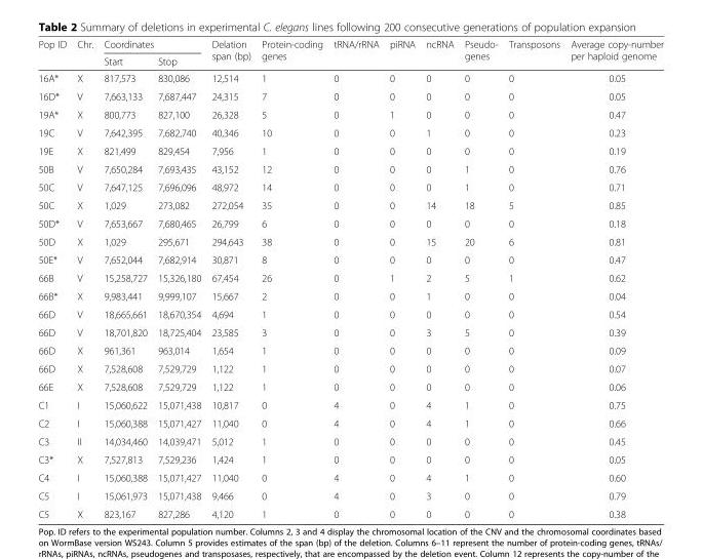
<table><thead><tr><td rowspan="2">Pop ID</td><td rowspan="2">Chr.</td><td colspan="2">Coordinates</td><td rowspan="2">Delation span (bp)</td><td rowspan="2">Protein-coding genes</td><td rowspan="2">tRNA/rRNA</td><td rowspan="2">piRNA</td><td rowspan="2">ncRNA</td><td rowspan="2">Pseudo- genes</td><td rowspan="2">Transposons</td><td rowspan="2">Average copy-number per haploid genome</td></tr><tr><td>Start</td><td>Stop</td></tr></thead><tbody><tr><td>16A*</td><td>X</td><td>817,573</td><td>830,086</td><td>12,514</td><td>1</td><td>0</td><td>0</td><td>0</td><td>0</td><td>0</td><td>0.05</td></tr><tr><td>16D*</td><td>V</td><td>7,663,133</td><td>7,687,447</td><td>24,315</td><td>7</td><td>0</td><td>0</td><td>0</td><td>0</td><td>0</td><td>0.05</td></tr><tr><td>19A*</td><td>X</td><td>800,773</td><td>827,100</td><td>26,328</td><td>5</td><td>0</td><td>1</td><td>0</td><td>0</td><td>0</td><td>0.47</td></tr><tr><td>19C</td><td>V</td><td>7,642,395</td><td>7,682,740</td><td>40,346</td><td>10</td><td>0</td><td>0</td><td>1</td><td>0</td><td>0</td><td>0.23</td></tr><tr><td>19E</td><td>X</td><td>821,499</td><td>829,454</td><td>7,956</td><td>1</td><td>0</td><td>0</td><td>0</td><td>0</td><td>0</td><td>0.19</td></tr><tr><td>50B</td><td>V</td><td>7,650,284</td><td>7,693,435</td><td>43,152</td><td>12</td><td>0</td><td>0</td><td>0</td><td>1</td><td>0</td><td>0.76</td></tr><tr><td>50C</td><td>V</td><td>7,647,125</td><td>7,696,096</td><td>48,972</td><td>14</td><td>0</td><td>0</td><td>0</td><td>1</td><td>0</td><td>0.71</td></tr><tr><td>50C</td><td>X</td><td>1,029</td><td>273,082</td><td>272,054</td><td>35</td><td>0</td><td>0</td><td>14</td><td>18</td><td>5</td><td>0.85</td></tr><tr><td>50D*</td><td>V</td><td>7,653,667</td><td>7,680,465</td><td>26,799</td><td>6</td><td>0</td><td>0</td><td>0</td><td>0</td><td>0</td><td>0.18</td></tr><tr><td>50D</td><td>X</td><td>1,029</td><td>295,671</td><td>294,643</td><td>38</td><td>0</td><td>0</td><td>15</td><td>20</td><td>6</td><td>0.81</td></tr><tr><td>50E*</td><td>V</td><td>7,652,044</td><td>7,682,914</td><td>30,871</td><td>8</td><td>0</td><td>0</td><td>0</td><td>0</td><td>0</td><td>0.47</td></tr><tr><td>66B</td><td>V</td><td>15,258,727</td><td>15,326,180</td><td>67,454</td><td>26</td><td>0</td><td>1</td><td>2</td><td>5</td><td>1</td><td>0.62</td></tr><tr><td>66B*</td><td>X</td><td>9,983,441</td><td>9,999,107</td><td>15,667</td><td>2</td><td>0</td><td>0</td><td>1</td><td>0</td><td>0</td><td>0.04</td></tr><tr><td>66D</td><td>V</td><td>18,665,661</td><td>18,670,354</td><td>4,694</td><td>1</td><td>0</td><td>0</td><td>0</td><td>0</td><td>0</td><td>0.54</td></tr><tr><td>66D</td><td>V</td><td>18,701,820</td><td>18,725,404</td><td>23,585</td><td>3</td><td>0</td><td>0</td><td>3</td><td>5</td><td>0</td><td>0.39</td></tr><tr><td>66D</td><td>X</td><td>961,361</td><td>963,014</td><td>1,654</td><td>1</td><td>0</td><td>0</td><td>0</td><td>0</td><td>0</td><td>0.09</td></tr><tr><td>66D</td><td>X</td><td>7,528,608</td><td>7,529,729</td><td>1,122</td><td>1</td><td>0</td><td>0</td><td>0</td><td>0</td><td>0</td><td>0.07</td></tr><tr><td>66E</td><td>X</td><td>7,528,608</td><td>7,529,729</td><td>1,122</td><td>1</td><td>0</td><td>0</td><td>0</td><td>0</td><td>0</td><td>0.06</td></tr><tr><td>C1</td><td>I</td><td>15,060,622</td><td>15,071,438</td><td>10,817</td><td>0</td><td>4</td><td>0</td><td>4</td><td>1</td><td>0</td><td>0.75</td></tr><tr><td>C2</td><td>I</td><td>15,060,388</td><td>15,071,427</td><td>11,040</td><td>0</td><td>4</td><td>0</td><td>4</td><td>1</td><td>0</td><td>0.66</td></tr><tr><td>C3</td><td>II</td><td>14,034,460</td><td>14,039,471</td><td>5,012</td><td>1</td><td>0</td><td>0</td><td>0</td><td>0</td><td>0</td><td>0.45</td></tr><tr><td>C3*</td><td>X</td><td>7,527,813</td><td>7,529,236</td><td>1,424</td><td>1</td><td>0</td><td>0</td><td>0</td><td>0</td><td>0</td><td>0.05</td></tr><tr><td>C4</td><td>I</td><td>15,060,388</td><td>15,071,427</td><td>11,040</td><td>0</td><td>4</td><td>0</td><td>4</td><td>1</td><td>0</td><td>0.60</td></tr><tr><td>C5</td><td>I</td><td>15,061,973</td><td>15,071,438</td><td>9,466</td><td>0</td><td>4</td><td>0</td><td>3</td><td>0</td><td>0</td><td>0.79</td></tr><tr><td>C5</td><td>X</td><td>823,167</td><td>827,286</td><td>4,120</td><td>1</td><td>0</td><td>0</td><td>0</td><td>0</td><td>0</td><td>0.38</td></tr></tbody></table>